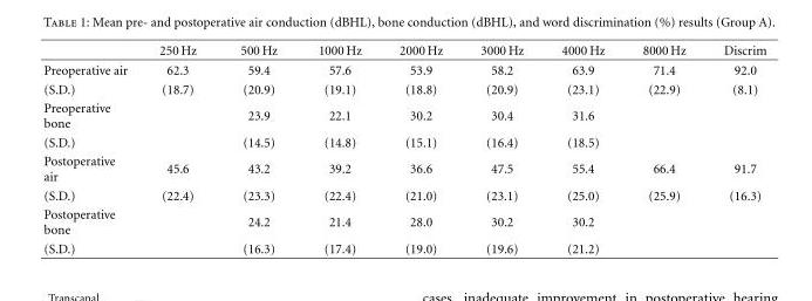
<table><thead><tr><td></td><td>250 Hz</td><td>500 Hz</td><td>1000 Hz</td><td>2000 Hz</td><td>3000 Hz</td><td>4000 Hz</td><td>8000 Hz</td><td>Discrim</td></tr></thead><tbody><tr><td>Preoperative air</td><td>62.3</td><td>59.4</td><td>57.6</td><td>53.9</td><td>58.2</td><td>63.9</td><td>71.4</td><td>92.0</td></tr><tr><td>(S.D.)</td><td>(18.7)</td><td>(20.9)</td><td>(19.1)</td><td>(18.8)</td><td>(20.9)</td><td>(23.1)</td><td>(22.9)</td><td>(8.1)</td></tr><tr><td>Preoperative bone</td><td></td><td>23.9</td><td>22.1</td><td>30.2</td><td>30.4</td><td>31.6</td><td></td><td></td></tr><tr><td>(S.D.)</td><td></td><td>(14.5)</td><td>(14.8)</td><td>(15.1)</td><td>(16.4)</td><td>(18.5)</td><td></td><td></td></tr><tr><td>Postoperative air</td><td>45.6</td><td>43.2</td><td>39.2</td><td>36.6</td><td>47.5</td><td>55.4</td><td>66.4</td><td>91.7</td></tr><tr><td>(S.D.)</td><td>(22.4)</td><td>(23.3)</td><td>(22.4)</td><td>(21.0)</td><td>(23.1)</td><td>(25.0)</td><td>(25.9)</td><td>(16.3)</td></tr><tr><td>Postoperative bone</td><td></td><td>24.2</td><td>21.4</td><td>28.0</td><td>30.2</td><td>30.2</td><td></td><td></td></tr><tr><td>(S.D.)</td><td></td><td>(16.3)</td><td>(17.4)</td><td>(19.0)</td><td>(19.6)</td><td>(21.2)</td><td></td><td></td></tr></tbody></table>